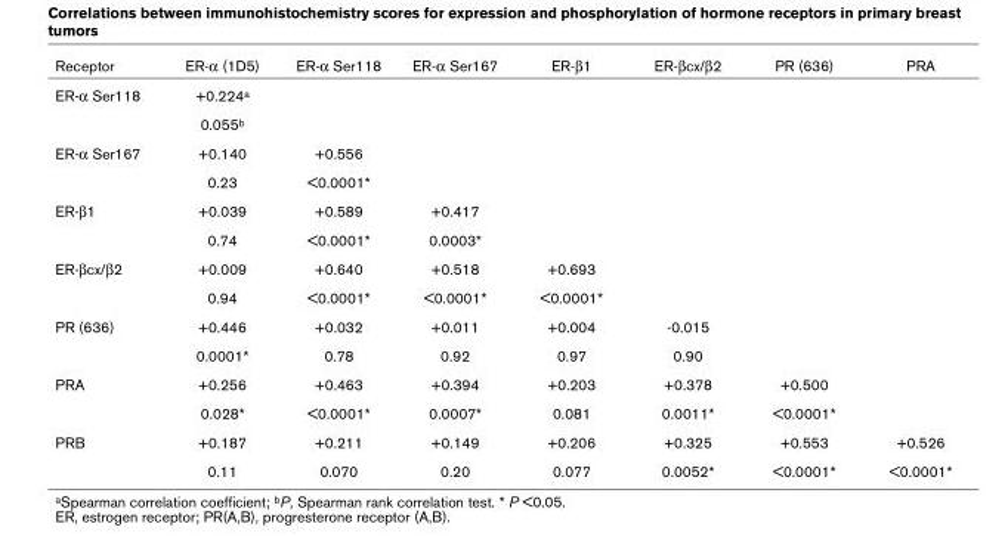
<table><thead><tr><td>Receptor</td><td>ER-α (1D5)</td><td>ER-α Ser118</td><td>ER-α Ser167</td><td>ER-β1</td><td>ER-βcx/β2</td><td>PR (636)</td><td>PRA</td></tr></thead><tbody><tr><td rowspan="2">ER-α Ser118</td><td>+0.224a</td><td></td><td></td><td></td><td></td><td></td><td></td></tr><tr><td>0.055b</td><td></td><td></td><td></td><td></td><td></td><td></td></tr><tr><td rowspan="2">ER-α Ser167</td><td>+0.140</td><td>+0.556</td><td></td><td></td><td></td><td></td><td></td></tr><tr><td>0.23</td><td>&lt;0.0001*</td><td></td><td></td><td></td><td></td><td></td></tr><tr><td rowspan="2">ER-β1</td><td>+0.039</td><td>+0.589</td><td>+0.417</td><td></td><td></td><td></td><td></td></tr><tr><td>0.74</td><td>&lt;0.0001*</td><td>0.0003*</td><td></td><td></td><td></td><td></td></tr><tr><td rowspan="2">ER-βcx/β2</td><td>+0.009</td><td>+0.640</td><td>+0.518</td><td>+0.693</td><td></td><td></td><td></td></tr><tr><td>0.94</td><td>&lt;0.0001*</td><td>&lt;0.0001*</td><td>&lt;0.0001*</td><td></td><td></td><td></td></tr><tr><td rowspan="2">PR (636)</td><td>+0.446</td><td>+0.032</td><td>+0.011</td><td>+0.004</td><td>-0.015</td><td></td><td></td></tr><tr><td>0.0001*</td><td>0.78</td><td>0.92</td><td>0.97</td><td>0.90</td><td></td><td></td></tr><tr><td rowspan="2">PRA</td><td>+0.256</td><td>+0.463</td><td>+0.394</td><td>+0.203</td><td>+0.378</td><td>+0.500</td><td></td></tr><tr><td>0.028*</td><td>&lt;0.0001*</td><td>0.0007*</td><td>0.081</td><td>0.0011*</td><td>&lt;0.0001*</td><td></td></tr><tr><td rowspan="2">PRB</td><td>+0.187</td><td>+0.211</td><td>+0.149</td><td>+0.206</td><td>+0.325</td><td>+0.553</td><td>+0.526</td></tr><tr><td>0.11</td><td>0.070</td><td>0.20</td><td>0.077</td><td>0.0052*</td><td>&lt;0.0001*</td><td>&lt;0.0001*</td></tr></tbody></table>